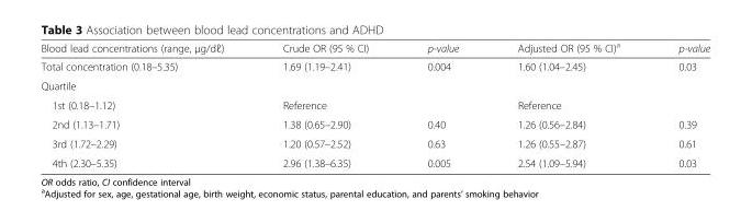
<table><thead><tr><td>Blood lead concentrations (range, μg/dℓ)</td><td>Crude OR (95 % CI)</td><td>p-value</td><td>Adjusted OR (95 % CI)<sup>a</sup></td><td>p-value</td></tr></thead><tbody><tr><td>Total concentration (0.18–5.35)</td><td>1.69 (1.19–2.41)</td><td>0.004</td><td>1.60 (1.04–2.45)</td><td>0.03</td></tr><tr><td colspan="5">Quartile</td></tr><tr><td>1st (0.18–1.12)</td><td>Reference</td><td></td><td>Reference</td><td></td></tr><tr><td>2nd (1.13–1.71)</td><td>1.38 (0.65–2.90)</td><td>0.40</td><td>1.26 (0.56–2.84)</td><td>0.39</td></tr><tr><td>3rd (1.72–2.29)</td><td>1.20 (0.57–2.52)</td><td>0.63</td><td>1.26 (0.55–2.87)</td><td>0.61</td></tr><tr><td>4th (2.30–5.35)</td><td>2.96 (1.38–6.35)</td><td>0.005</td><td>2.54 (1.09–5.94)</td><td>0.03</td></tr></tbody></table>